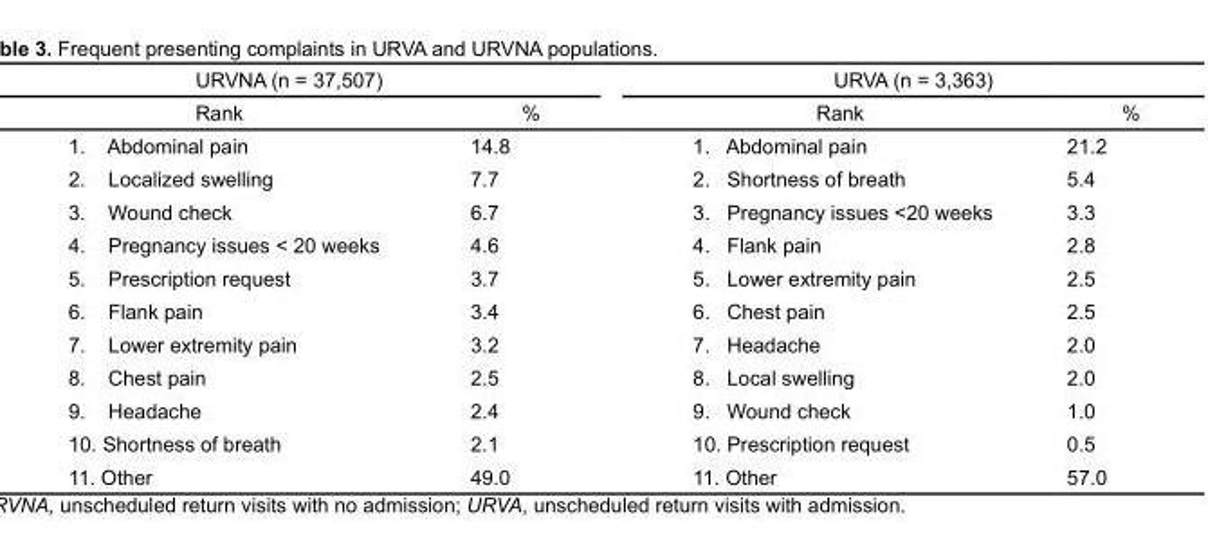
<table><thead><tr><td colspan="2">URVNA (n = 37,507)</td><td colspan="2">URVA (n = 3,363)</td></tr><tr><td>Rank</td><td>%</td><td>Rank</td><td>%</td></tr></thead><tbody><tr><td>1. Abdominal pain</td><td>14.8</td><td>1. Abdominal pain</td><td>21.2</td></tr><tr><td>2. Localized swelling</td><td>7.7</td><td>2. Shortness of breath</td><td>5.4</td></tr><tr><td>3. Wound check</td><td>6.7</td><td>3. Pregnancy issues &lt;20 weeks</td><td>3.3</td></tr><tr><td>4. Pregnancy issues &lt; 20 weeks</td><td>4.6</td><td>4. Flank pain</td><td>2.8</td></tr><tr><td>5. Prescription request</td><td>3.7</td><td>5. Lower extremity pain</td><td>2.5</td></tr><tr><td>6. Flank pain</td><td>3.4</td><td>6. Chest pain</td><td>2.5</td></tr><tr><td>7. Lower extremity pain</td><td>3.2</td><td>7. Headache</td><td>2.0</td></tr><tr><td>8. Chest pain</td><td>2.5</td><td>8. Local swelling</td><td>2.0</td></tr><tr><td>9. Headache</td><td>2.4</td><td>9. Wound check</td><td>1.0</td></tr><tr><td>10. Shortness of breath</td><td>2.1</td><td>10. Prescription request</td><td>0.5</td></tr><tr><td>11. Other</td><td>49.0</td><td>11. Other</td><td>57.0</td></tr></tbody></table>